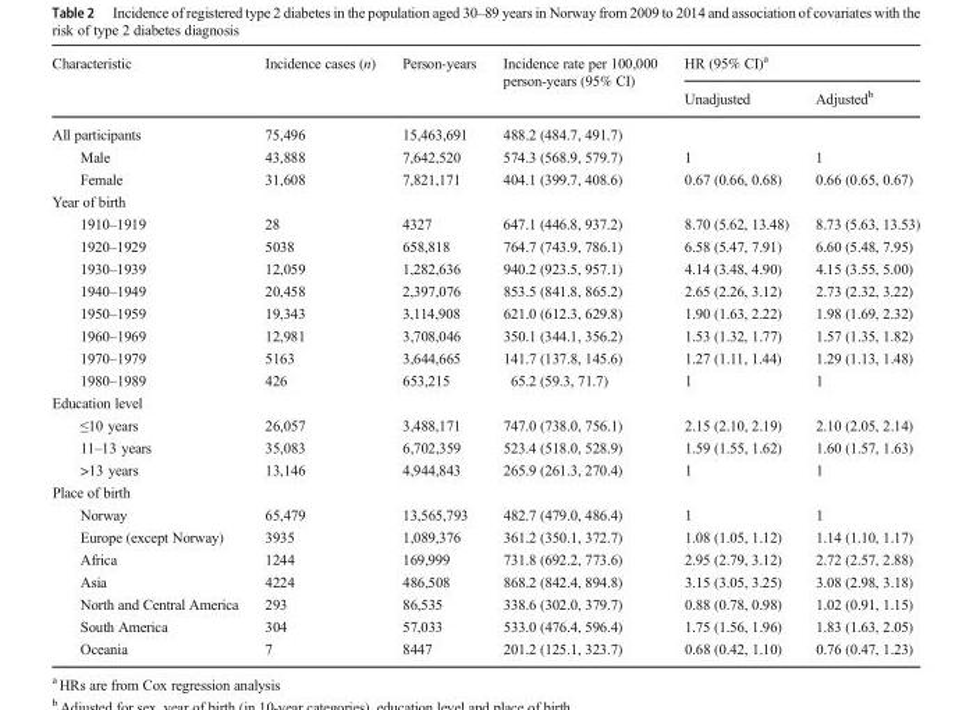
<table><thead><tr><td rowspan="2">Characteristic</td><td rowspan="2">Incidence cases (n)</td><td rowspan="2">Person-years</td><td rowspan="2">Incidence rate per 100,000 person-years (95% CI)</td><td colspan="2">HR (95% CI)<sup>a</sup></td></tr><tr><td>Unadjusted</td><td>Adjusted<sup>b</sup></td></tr></thead><tbody><tr><td>All participants</td><td>75,496</td><td>15,463,691</td><td>488.2 (484.7, 491.7)</td><td></td><td></td></tr><tr><td>Male</td><td>43,888</td><td>7,642,520</td><td>574.3 (568.9, 579.7)</td><td>1</td><td>1</td></tr><tr><td>Female</td><td>31,608</td><td>7,821,171</td><td>404.1 (399.7, 408.6)</td><td>0.67 (0.66, 0.68)</td><td>0.66 (0.65, 0.67)</td></tr><tr><td colspan="6">Year of birth</td></tr><tr><td>1910–1919</td><td>28</td><td>4327</td><td>647.1 (446.8, 937.2)</td><td>8.70 (5.62, 13.48)</td><td>8.73 (5.63, 13.53)</td></tr><tr><td>1920–1929</td><td>5038</td><td>658,818</td><td>764.7 (743.9, 786.1)</td><td>6.58 (5.47, 7.91)</td><td>6.60 (5.48, 7.95)</td></tr><tr><td>1930–1939</td><td>12,059</td><td>1,282,636</td><td>940.2 (923.5, 957.1)</td><td>4.14 (3.48, 4.90)</td><td>4.15 (3.55, 5.00)</td></tr><tr><td>1940–1949</td><td>20,458</td><td>2,397,076</td><td>853.5 (841.8, 865.2)</td><td>2.65 (2.26, 3.12)</td><td>2.73 (2.32, 3.22)</td></tr><tr><td>1950–1959</td><td>19,343</td><td>3,114,908</td><td>621.0 (612.3, 629.8)</td><td>1.90 (1.63, 2.22)</td><td>1.98 (1.69, 2.32)</td></tr><tr><td>1960–1969</td><td>12,981</td><td>3,708,046</td><td>350.1 (344.1, 356.2)</td><td>1.53 (1.32, 1.77)</td><td>1.57 (1.35, 1.82)</td></tr><tr><td>1970–1979</td><td>5163</td><td>3,644,665</td><td>141.7 (137.8, 145.6)</td><td>1.27 (1.11, 1.44)</td><td>1.29 (1.13, 1.48)</td></tr><tr><td>1980–1989</td><td>426</td><td>653,215</td><td>65.2 (59.3, 71.7)</td><td>1</td><td>1</td></tr><tr><td colspan="6">Education level</td></tr><tr><td>≤10 years</td><td>26,057</td><td>3,488,171</td><td>747.0 (738.0, 756.1)</td><td>2.15 (2.10, 2.19)</td><td>2.10 (2.05, 2.14)</td></tr><tr><td>11–13 years</td><td>35,083</td><td>6,702,359</td><td>523.4 (518.0, 528.9)</td><td>1.59 (1.55, 1.62)</td><td>1.60 (1.57, 1.63)</td></tr><tr><td>&gt;13 years</td><td>13,146</td><td>4,944,843</td><td>265.9 (261.3, 270.4)</td><td>1</td><td>1</td></tr><tr><td colspan="6">Place of birth</td></tr><tr><td>Norway</td><td>65,479</td><td>13,565,793</td><td>482.7 (479.0, 486.4)</td><td>1</td><td>1</td></tr><tr><td>Europe (except Norway)</td><td>3935</td><td>1,089,376</td><td>361.2 (350.1, 372.7)</td><td>1.08 (1.05, 1.12)</td><td>1.14 (1.10, 1.17)</td></tr><tr><td>Africa</td><td>1244</td><td>169,999</td><td>731.8 (692.2, 773.6)</td><td>2.95 (2.79, 3.12)</td><td>2.72 (2.57, 2.88)</td></tr><tr><td>Asia</td><td>4224</td><td>486,508</td><td>868.2 (842.4, 894.8)</td><td>3.15 (3.05, 3.25)</td><td>3.08 (2.98, 3.18)</td></tr><tr><td>North and Central America</td><td>293</td><td>86,535</td><td>338.6 (302.0, 379.7)</td><td>0.88 (0.78, 0.98)</td><td>1.02 (0.91, 1.15)</td></tr><tr><td>South America</td><td>304</td><td>57,033</td><td>533.0 (476.4, 596.4)</td><td>1.75 (1.56, 1.96)</td><td>1.83 (1.63, 2.05)</td></tr><tr><td>Oceania</td><td>7</td><td>8447</td><td>201.2 (125.1, 323.7)</td><td>0.68 (0.42, 1.10)</td><td>0.76 (0.47, 1.23)</td></tr></tbody></table>